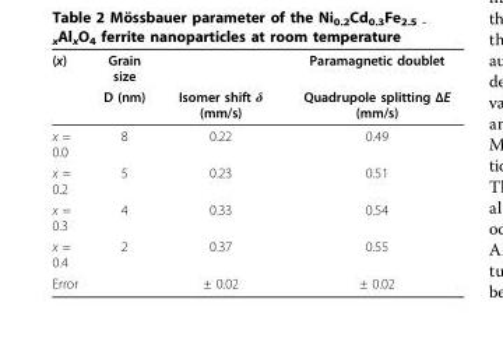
<table><thead><tr><td rowspan="2">(x)</td><td rowspan="2">Grain size D (nm)</td><td rowspan="2">Isomer shift δ (mm/s)</td><td rowspan="2">Paramagnetic doublet Quadrupole splitting ΔE (mm/s)</td></tr><tr></tr></thead><tbody><tr><td>x = 0.0</td><td>8</td><td>0.22</td><td>0.49</td></tr><tr><td>x = 0.2</td><td>5</td><td>0.23</td><td>0.51</td></tr><tr><td>x = 0.3</td><td>4</td><td>0.33</td><td>0.54</td></tr><tr><td>x = 0.4</td><td>2</td><td>0.37</td><td>0.55</td></tr><tr><td>Error</td><td></td><td>± 0.02</td><td>± 0.02</td></tr></tbody></table>